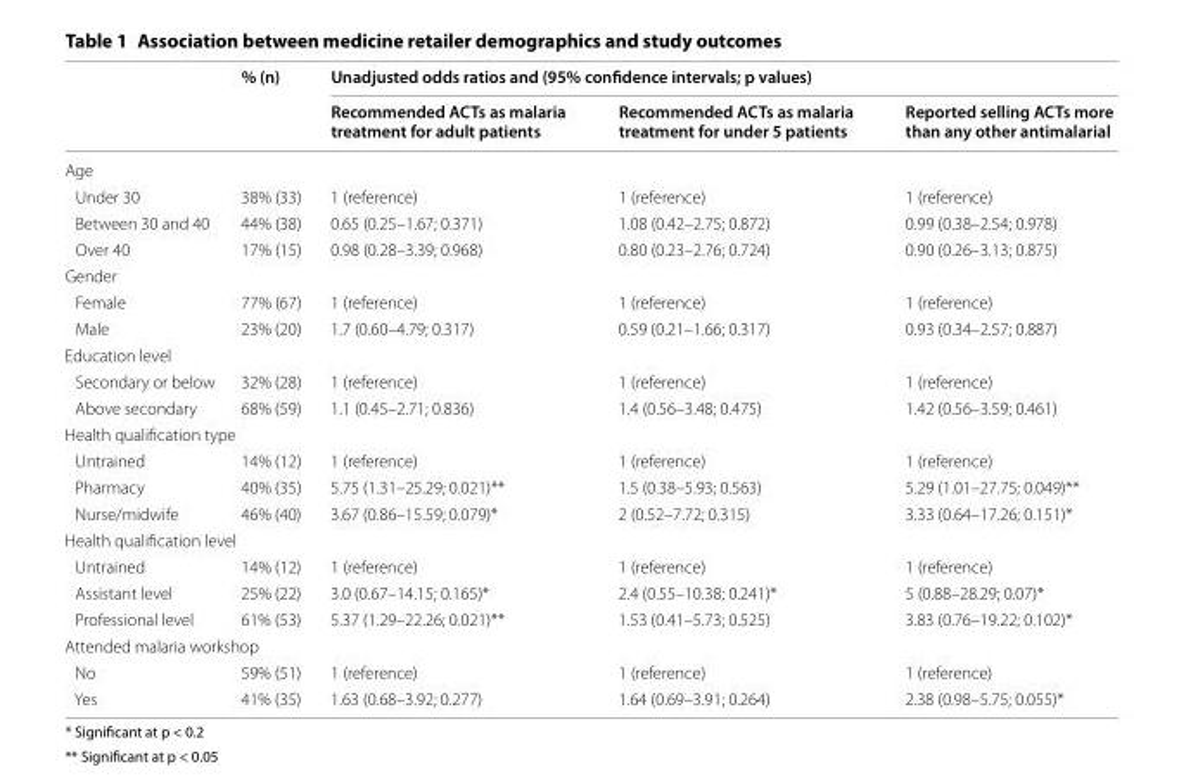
<table><thead><tr><td rowspan="2"></td><td rowspan="2">% (n)</td><td colspan="3">Unadjusted odds ratios and (95% confidence intervals; p values)</td></tr><tr><td>Recommended ACTs as malaria treatment for adult patients</td><td>Recommended ACTs as malaria treatment for under 5 patients</td><td>Reported selling ACTs more than any other antimalarial</td></tr></thead><tbody><tr><td colspan="5">Age</td></tr><tr><td>Under 30</td><td>38% (33)</td><td>1 (reference)</td><td>1 (reference)</td><td>1 (reference)</td></tr><tr><td>Between 30 and 40</td><td>44% (38)</td><td>0.65 (0.25–1.67; 0.371)</td><td>1.08 (0.42–2.75; 0.872)</td><td>0.99 (0.38–2.54; 0.978)</td></tr><tr><td>Over 40</td><td>17% (15)</td><td>0.98 (0.28–3.39; 0.968)</td><td>0.80 (0.23–2.76; 0.724)</td><td>0.90 (0.26–3.13; 0.875)</td></tr><tr><td colspan="5">Gender</td></tr><tr><td>Female</td><td>77% (67)</td><td>1 (reference)</td><td>1 (reference)</td><td>1 (reference)</td></tr><tr><td>Male</td><td>23% (20)</td><td>1.7 (0.60–4.79; 0.317)</td><td>0.59 (0.21–1.66; 0.317)</td><td>0.93 (0.34–2.57; 0.887)</td></tr><tr><td colspan="5">Education level</td></tr><tr><td>Secondary or below</td><td>32% (28)</td><td>1 (reference)</td><td>1 (reference)</td><td>1 (reference)</td></tr><tr><td>Above secondary</td><td>68% (59)</td><td>1.1 (0.45–2.71; 0.836)</td><td>1.4 (0.56–3.48; 0.475)</td><td>1.42 (0.56–3.59; 0.461)</td></tr><tr><td colspan="5">Health qualification type</td></tr><tr><td>Untrained</td><td>14% (12)</td><td>1 (reference)</td><td>1 (reference)</td><td>1 (reference)</td></tr><tr><td>Pharmacy</td><td>40% (35)</td><td>5.75 (1.31–25.29; 0.021)**</td><td>1.5 (0.38–5.93; 0.563)</td><td>5.29 (1.01–27.75; 0.049)**</td></tr><tr><td>Nurse/midwife</td><td>46% (40)</td><td>3.67 (0.86–15.59; 0.079)*</td><td>2 (0.52–7.72; 0.315)</td><td>3.33 (0.64–17.26; 0.151)*</td></tr><tr><td colspan="5">Health qualification level</td></tr><tr><td>Untrained</td><td>14% (12)</td><td>1 (reference)</td><td>1 (reference)</td><td>1 (reference)</td></tr><tr><td>Assistant level</td><td>25% (22)</td><td>3.0 (0.67–14.15; 0.165)*</td><td>2.4 (0.55–10.38; 0.241)*</td><td>5 (0.88–28.29; 0.07)*</td></tr><tr><td>Professional level</td><td>61% (53)</td><td>5.37 (1.29–22.26; 0.021)**</td><td>1.53 (0.41–5.73; 0.525)</td><td>3.83 (0.76–19.22; 0.102)*</td></tr><tr><td colspan="5">Attended malaria workshop</td></tr><tr><td>No</td><td>59% (51)</td><td>1 (reference)</td><td>1 (reference)</td><td>1 (reference)</td></tr><tr><td>Yes</td><td>41% (35)</td><td>1.63 (0.68–3.92; 0.277)</td><td>1.64 (0.69–3.91; 0.264)</td><td>2.38 (0.98–5.75; 0.055)*</td></tr></tbody></table>